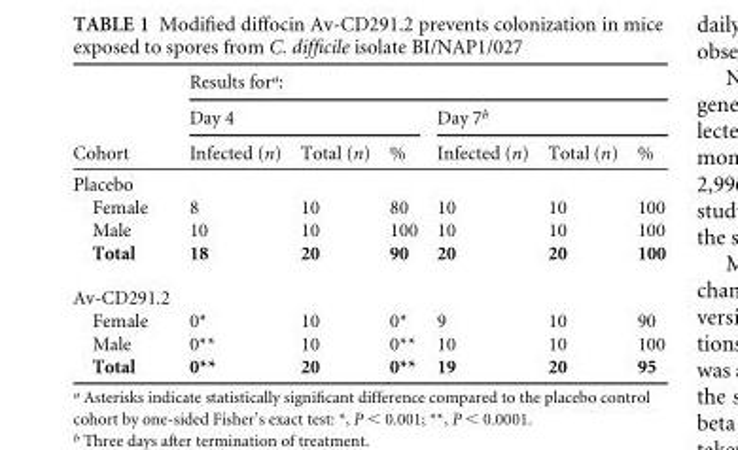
<table><thead><tr><td rowspan="3">Cohort</td><td colspan="6">Results for<sup>a</sup>:</td></tr><tr><td colspan="3">Day 4</td><td colspan="3">Day 7<sup>b</sup></td></tr><tr><td>Infected (n)</td><td>Total (n)</td><td>%</td><td>Infected (n)</td><td>Total (n)</td><td>%</td></tr></thead><tbody><tr><td colspan="7">Placebo</td></tr><tr><td>Female</td><td>8</td><td>10</td><td>80</td><td>10</td><td>10</td><td>100</td></tr><tr><td>Male</td><td>10</td><td>10</td><td>100</td><td>10</td><td>10</td><td>100</td></tr><tr><td>Total</td><td>18</td><td>20</td><td>90</td><td>20</td><td>20</td><td>100</td></tr><tr><td colspan="7">Av-CD291.2</td></tr><tr><td>Female</td><td>0*</td><td>10</td><td>0*</td><td>9</td><td>10</td><td>90</td></tr><tr><td>Male</td><td>0**</td><td>10</td><td>0**</td><td>10</td><td>10</td><td>100</td></tr><tr><td>Total</td><td>0**</td><td>20</td><td>0**</td><td>19</td><td>20</td><td>95</td></tr></tbody></table>